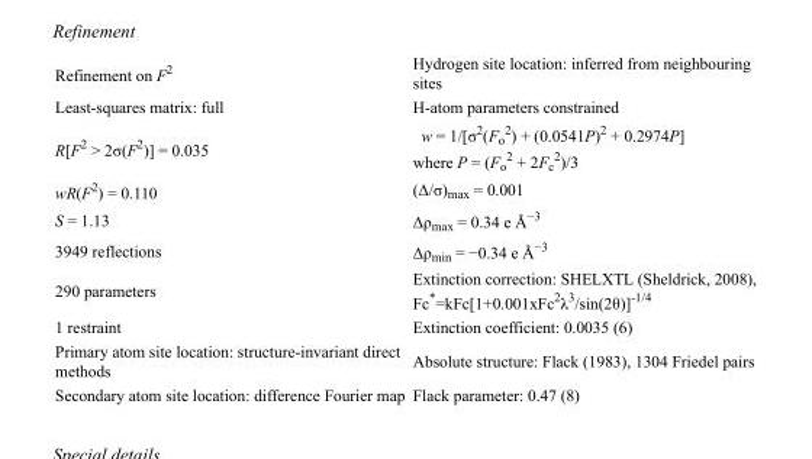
<table><tbody><tr><td>Refinement on F<sup>2</sup></td><td>Hydrogen site location: inferred from neighbouring sites</td></tr><tr><td>Least-squares matrix: full</td><td>H-atom parameters constrained</td></tr><tr><td>R[F<sup>2</sup> &gt; 2σ(F<sup>2</sup>)] = 0.035</td><td>w = 1/[σ<sup>2</sup>(F<sub>o</sub> <sup>2</sup>) + (0.0541P)<sup>2</sup> + 0.2974P] where P = (F<sub>o</sub> <sup>2</sup> + 2F<sub>c</sub> <sup>2</sup>)/3</td></tr><tr><td>wR(F<sup>2</sup>) = 0.110</td><td>(Δ/σ)<sub>max</sub> = 0.001</td></tr><tr><td>S = 1.13</td><td>Δρ<sub>max</sub> = 0.34 e Å<sup>−3</sup></td></tr><tr><td>3949 reflections</td><td>Δρ<sub>min</sub> = −0.34 e Å<sup>−3</sup></td></tr><tr><td>290 parameters</td><td>Extinction correction: SHELXTL (Sheldrick, 2008), Fc*=kFc[1+0.001xFc<sup>2</sup>λ<sup>3</sup>/sin(2θ)]<sup>-1/4</sup></td></tr><tr><td>1 restraint</td><td>Extinction coefficient: 0.0035 (6)</td></tr><tr><td>Primary atom site location: structure-invariant direct methods</td><td>Absolute structure: Flack (1983), 1304 Friedel pairs</td></tr><tr><td>Secondary atom site location: difference Fourier map</td><td>Flack parameter: 0.47 (8)</td></tr></tbody></table>